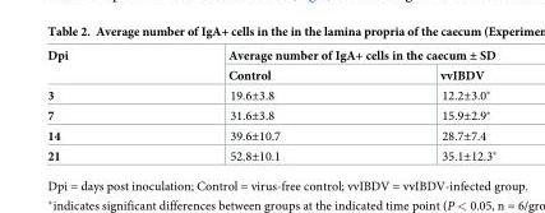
<table><thead><tr><td rowspan="2">Dpi</td><td colspan="2">Average number of IgA+ cells in the caecum ± SD</td></tr><tr><td>Control</td><td>vvIBDV</td></tr></thead><tbody><tr><td>3</td><td>19.6±3.8</td><td>12.2±3.0*</td></tr><tr><td>7</td><td>31.6±3.8</td><td>15.9±2.9*</td></tr><tr><td>14</td><td>39.6±10.7</td><td>28.7±7.4</td></tr><tr><td>21</td><td>52.8±10.1</td><td>35.1±12.3*</td></tr></tbody></table>